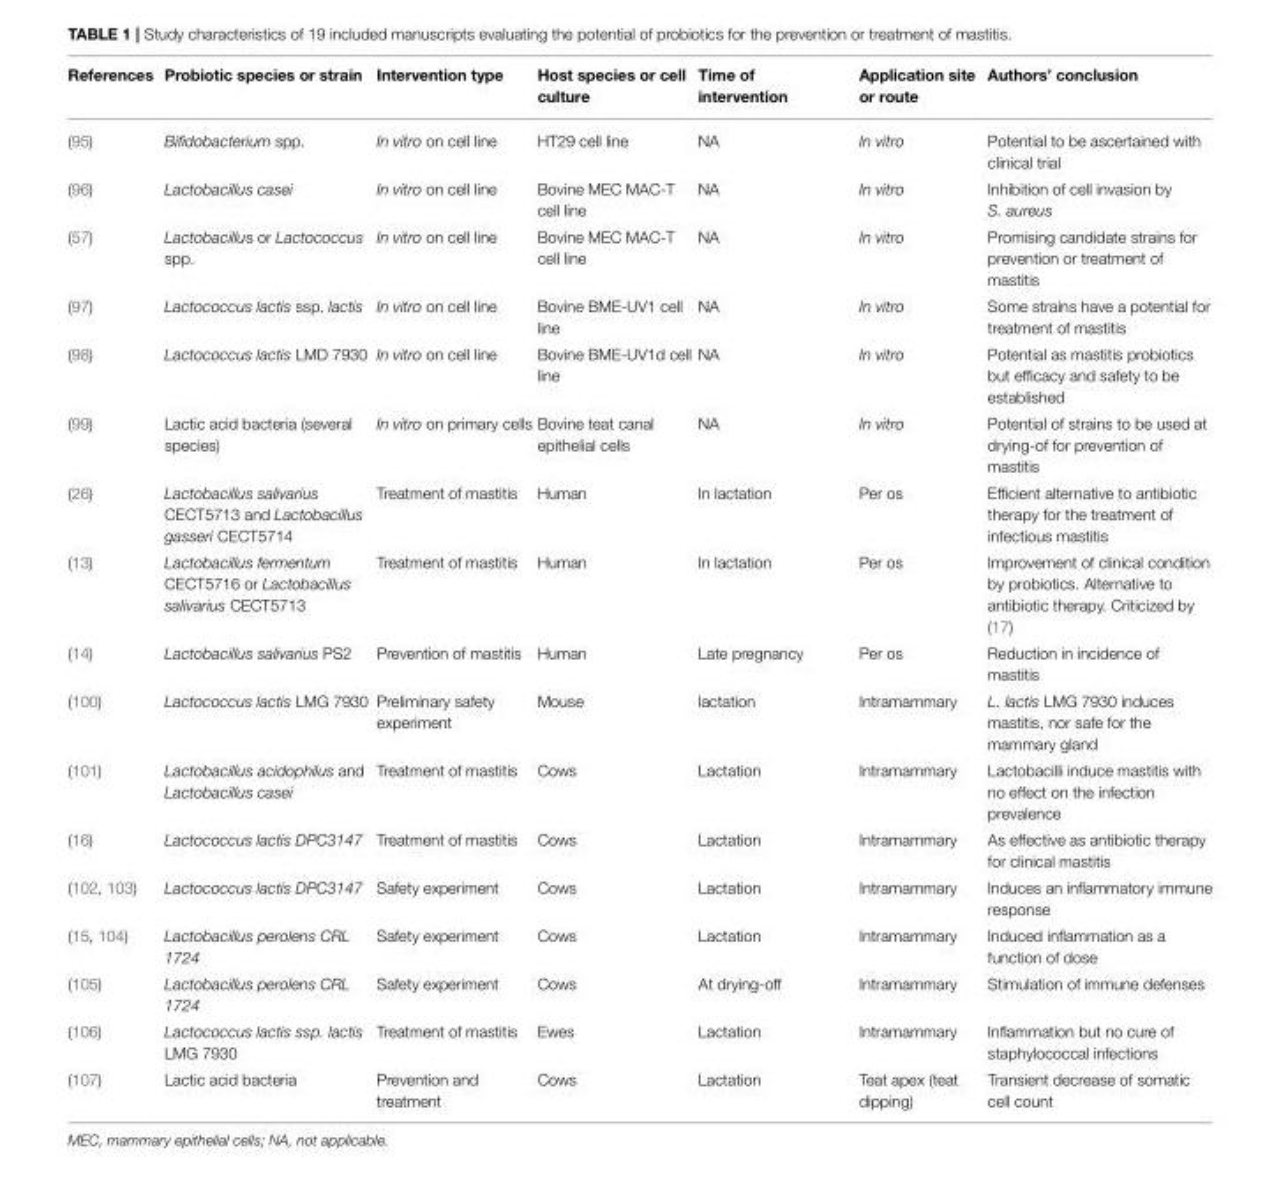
<table><thead><tr><td>References</td><td>Probiotic species or strain</td><td>Intervention type</td><td>Host species or cell culture</td><td>Time of intervention</td><td>Application site or route</td><td>Authors’ conclusion</td></tr></thead><tbody><tr><td>(95)</td><td>Bifidobacterium spp.</td><td>In vitro on cell line</td><td>HT29 cell line</td><td>NA</td><td>In vitro</td><td>Potential to be ascertained with clinical trial</td></tr><tr><td>(96)</td><td>Lactobacillus casei</td><td>In vitro on cell line</td><td>Bovine MEC MAC-T cell line</td><td>NA</td><td>In vitro</td><td>Inhibition of cell invasion by S. aureus</td></tr><tr><td>(57)</td><td>Lactobacillus or Lactococcus spp.</td><td>In vitro on cell line</td><td>Bovine MEC MAC-T cell line</td><td>NA</td><td>In vitro</td><td>Promising candidate strains for prevention or treatment of mastitis</td></tr><tr><td>(97)</td><td>Lactococcus lactis ssp. lactis</td><td>In vitro on cell line</td><td>Bovine BME-UV1 cell line</td><td>NA</td><td>In vitro</td><td>Some strains have a potential for treatment of mastitis</td></tr><tr><td>(98)</td><td>Lactococcus lactis LMD 7930</td><td>In vitro on cell line</td><td>Bovine BME-UV1d cell line</td><td>NA</td><td>In vitro</td><td>Potential as mastitis probiotics but efficacy and safety to be established</td></tr><tr><td>(99)</td><td>Lactic acid bacteria (several species)</td><td>In vitro on primary cells</td><td>Bovine teat canal epithelial cells</td><td>NA</td><td>In vitro</td><td>Potential of strains to be used at drying-of for prevention of mastitis</td></tr><tr><td>(26)</td><td>Lactobacillus salivarius CECT5713 and Lactobacillus gasseri CECT5714</td><td>Treatment of mastitis</td><td>Human</td><td>In lactation</td><td>Per os</td><td>Efficient alternative to antibiotic therapy for the treatment of infectious mastitis</td></tr><tr><td>(13)</td><td>Lactobacillus fermentum CECT5716 or Lactobacillus salivarius CECT5713</td><td>Treatment of mastitis</td><td>Human</td><td>In lactation</td><td>Per os</td><td>Improvement of clinical condition by probiotics. Alternative to antibiotic therapy. Criticized by (17)</td></tr><tr><td>(14)</td><td>Lactobacillus salivarius PS2</td><td>Prevention of mastitis</td><td>Human</td><td>Late pregnancy</td><td>Per os</td><td>Reduction in incidence of mastitis</td></tr><tr><td>(100)</td><td>Lactococcus lactis LMG 7930</td><td>Preliminary safety experiment</td><td>Mouse</td><td>lactation</td><td>Intramammary</td><td>L. lactis LMG 7930 induces mastitis, nor safe for the mammary gland</td></tr><tr><td>(101)</td><td>Lactobacillus acidophilus and Lactobacillus casei</td><td>Treatment of mastitis</td><td>Cows</td><td>Lactation</td><td>Intramammary</td><td>Lactobacilli induce mastitis with no effect on the infection prevalence</td></tr><tr><td>(16)</td><td>Lactococcus lactis DPC3147</td><td>Treatment of mastitis</td><td>Cows</td><td>Lactation</td><td>Intramammary</td><td>As effective as antibiotic therapy for clinical mastitis</td></tr><tr><td>(102, 103)</td><td>Lactococcus lactis DPC3147</td><td>Safety experiment</td><td>Cows</td><td>Lactation</td><td>Intramammary</td><td>Induces an inflammatory immune response</td></tr><tr><td>(15, 104)</td><td>Lactobacillus perolens CRL 1724</td><td>Safety experiment</td><td>Cows</td><td>Lactation</td><td>Intramammary</td><td>Induced inflammation as a function of dose</td></tr><tr><td>(105)</td><td>Lactobacillus perolens CRL 1724</td><td>Safety experiment</td><td>Cows</td><td>At drying-off</td><td>Intramammary</td><td>Stimulation of immune defenses</td></tr><tr><td>(106)</td><td>Lactococcus lactis ssp. lactis LMG 7930</td><td>Treatment of mastitis</td><td>Ewes</td><td>Lactation</td><td>Intramammary</td><td>Inflammation but no cure of staphylococcal infections</td></tr><tr><td>(107)</td><td>Lactic acid bacteria</td><td>Prevention and treatment</td><td>Cows</td><td>Lactation</td><td>Teat apex (teat dipping)</td><td>Transient decrease of somatic cell count</td></tr></tbody></table>